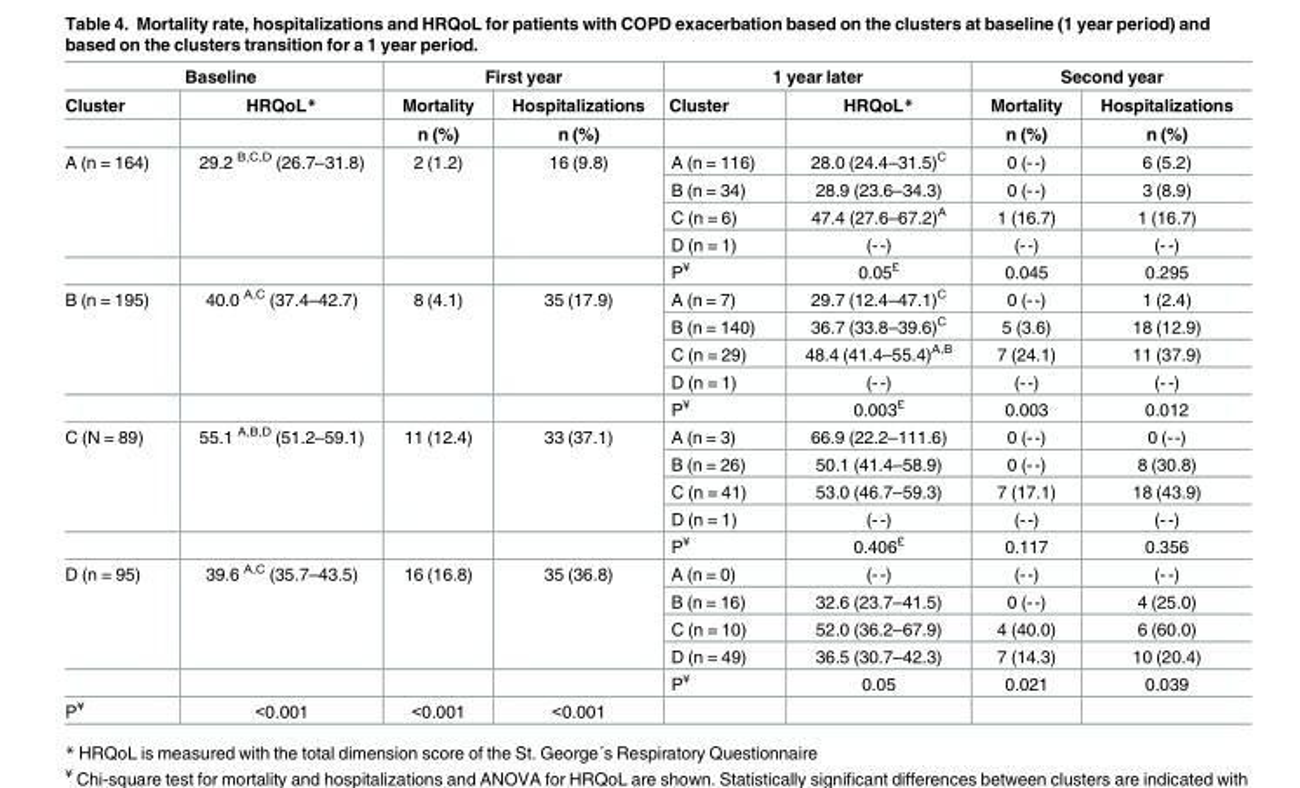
<table><thead><tr><td colspan="2">Baseline</td><td colspan="2">First year</td><td colspan="2">1 year later</td><td colspan="2">Second year</td></tr><tr><td rowspan="2">Cluster</td><td rowspan="2">HRQoL*</td><td rowspan="2">Mortality n (%)</td><td rowspan="2">Hospitalizations n (%)</td><td rowspan="2">Cluster</td><td rowspan="2">HRQoL*</td><td rowspan="2">Mortality n (%)</td><td rowspan="2">Hospitalizations n (%)</td></tr><tr></tr></thead><tbody><tr><td rowspan="5">A (n = 164)</td><td rowspan="4">29.2 <sup>B,C,D</sup> (26.7–31.8)</td><td rowspan="4">2 (1.2)</td><td rowspan="4">16 (9.8)</td><td>A (n = 116)</td><td>28.0 (24.4–31.5)<sup>C</sup></td><td>0 (--)</td><td>6 (5.2)</td></tr><tr><td>B (n = 34)</td><td>28.9 (23.6–34.3)</td><td>0 (--)</td><td>3 (8.9)</td></tr><tr><td>C (n = 6)</td><td>47.4 (27.6–67.2)<sup>A</sup></td><td>1 (16.7)</td><td>1 (16.7)</td></tr><tr><td>D (n = 1)</td><td>(--)</td><td>(--)</td><td>(--)</td></tr><tr><td></td><td></td><td></td><td>P<sup>¥</sup></td><td>0.05<sup>£</sup></td><td>0.045</td><td>0.295</td></tr><tr><td rowspan="5">B (n = 195)</td><td rowspan="4">40.0 <sup>A,C</sup> (37.4–42.7)</td><td rowspan="4">8 (4.1)</td><td rowspan="4">35 (17.9)</td><td>A (n = 7)</td><td>29.7 (12.4–47.1)<sup>C</sup></td><td>0 (--)</td><td>1 (2.4)</td></tr><tr><td>B (n = 140)</td><td>36.7 (33.8–39.6)<sup>C</sup></td><td>5 (3.6)</td><td>18 (12.9)</td></tr><tr><td>C (n = 29)</td><td>48.4 (41.4–55.4)<sup>A,B</sup></td><td>7 (24.1)</td><td>11 (37.9)</td></tr><tr><td>D (n = 1)</td><td>(--)</td><td>(--)</td><td>(--)</td></tr><tr><td></td><td></td><td></td><td>P<sup>¥</sup></td><td>0.003<sup>£</sup></td><td>0.003</td><td>0.012</td></tr><tr><td rowspan="5">C (N = 89)</td><td rowspan="4">55.1 <sup>A,B,D</sup> (51.2–59.1)</td><td rowspan="4">11 (12.4)</td><td rowspan="4">33 (37.1)</td><td>A (n = 3)</td><td>66.9 (22.2–111.6)</td><td>0 (--)</td><td>0 (--)</td></tr><tr><td>B (n = 26)</td><td>50.1 (41.4–58.9)</td><td>0 (--)</td><td>8 (30.8)</td></tr><tr><td>C (n = 41)</td><td>53.0 (46.7–59.3)</td><td>7 (17.1)</td><td>18 (43.9)</td></tr><tr><td>D (n = 1)</td><td>(--)</td><td>(--)</td><td>(--)</td></tr><tr><td></td><td></td><td></td><td>P<sup>¥</sup></td><td>0.406<sup>£</sup></td><td>0.117</td><td>0.356</td></tr><tr><td rowspan="5">D (n = 95)</td><td rowspan="4">39.6 <sup>A,C</sup> (35.7–43.5)</td><td rowspan="4">16 (16.8)</td><td rowspan="4">35 (36.8)</td><td>A (n = 0)</td><td>(--)</td><td>(--)</td><td>(--)</td></tr><tr><td>B (n = 16)</td><td>32.6 (23.7–41.5)</td><td>0 (--)</td><td>4 (25.0)</td></tr><tr><td>C (n = 10)</td><td>52.0 (36.2–67.9)</td><td>4 (40.0)</td><td>6 (60.0)</td></tr><tr><td>D (n = 49)</td><td>36.5 (30.7–42.3)</td><td>7 (14.3)</td><td>10 (20.4)</td></tr><tr><td></td><td></td><td></td><td>P<sup>¥</sup></td><td>0.05</td><td>0.021</td><td>0.039</td></tr><tr><td>P<sup>¥</sup></td><td>&lt;0.001</td><td>&lt;0.001</td><td>&lt;0.001</td><td></td><td></td><td></td><td></td></tr></tbody></table>